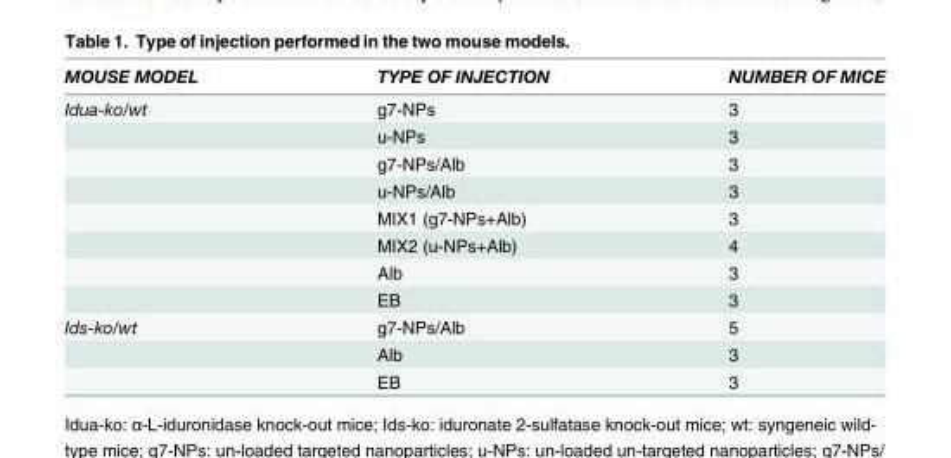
<table><thead><tr><td>MOUSE MODEL</td><td>TYPE OF INJECTION</td><td>NUMBER OF MICE</td></tr></thead><tbody><tr><td rowspan="8">Idua-ko/wt</td><td>g7-NPs</td><td>3</td></tr><tr><td>u-NPs</td><td>3</td></tr><tr><td>g7-NPs/Alb</td><td>3</td></tr><tr><td>u-NPs/Alb</td><td>3</td></tr><tr><td>MIX1 (g7-NPs+Alb)</td><td>3</td></tr><tr><td>MIX2 (u-NPs+Alb)</td><td>4</td></tr><tr><td>Alb</td><td>3</td></tr><tr><td>EB</td><td>3</td></tr><tr><td rowspan="3">Ids-ko/wt</td><td>g7-NPs/Alb</td><td>5</td></tr><tr><td>Alb</td><td>3</td></tr><tr><td>EB</td><td>3</td></tr></tbody></table>